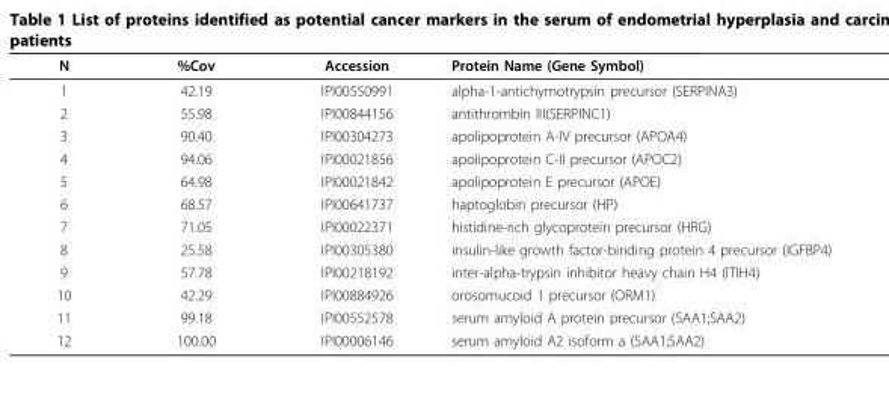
<table><thead><tr><td>N</td><td>%Cov</td><td>Accession</td><td>Protein Name (Gene Symbol)</td></tr></thead><tbody><tr><td>1</td><td>42.19</td><td>IPI00550991</td><td>alpha-1-antichymotrypsin precursor (SERPINA3)</td></tr><tr><td>2</td><td>55.98</td><td>IPI00844156</td><td>antithrombin III(SERPINC1)</td></tr><tr><td>3</td><td>90.40</td><td>IPI00304273</td><td>apolipoprotein A-IV precursor (APOA4)</td></tr><tr><td>4</td><td>94.06</td><td>IPI00021856</td><td>apolipoprotein C-II precursor (APOC2)</td></tr><tr><td>5</td><td>64.98</td><td>IPI00021842</td><td>apolipoprotein E precursor (APOE)</td></tr><tr><td>6</td><td>68.57</td><td>IPI00641737</td><td>haptoglobin precursor (HP)</td></tr><tr><td>7</td><td>71.05</td><td>IPI00022371</td><td>histidine-rich glycoprotein precursor (HRG)</td></tr><tr><td>8</td><td>25.58</td><td>IPI00305380</td><td>insulin-like growth factor-binding protein 4 precursor (IGFBP4)</td></tr><tr><td>9</td><td>57.78</td><td>IPI00218192</td><td>inter-alpha-trypsin inhibitor heavy chain H4 (ITIH4)</td></tr><tr><td>10</td><td>42.29</td><td>IPI00884926</td><td>orosomucoid 1 precursor (ORM1)</td></tr><tr><td>11</td><td>99.18</td><td>IPI00552578</td><td>serum amyloid A protein precursor (SAA1;SAA2)</td></tr><tr><td>12</td><td>100.00</td><td>IPI00006146</td><td>serum amyloid A2 isoform a (SAA1;SAA2)</td></tr></tbody></table>